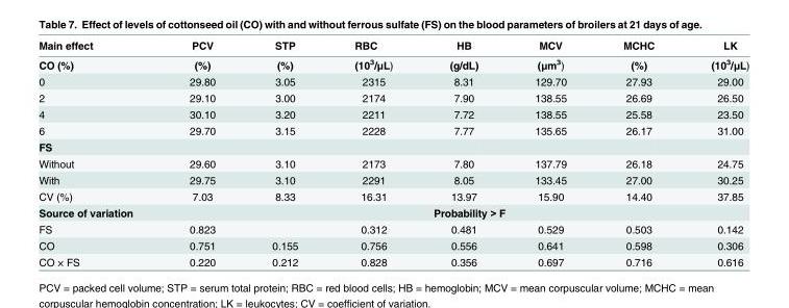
<table><thead><tr><td>Main effect</td><td>PCV</td><td>STP</td><td>RBC</td><td>HB</td><td>MCV</td><td>MCHC</td><td>LK</td></tr></thead><tbody><tr><td>CO (%)</td><td>(%)</td><td>(%)</td><td>(10<sup>3</sup>/μL)</td><td>(g/dL)</td><td>(μm<sup>3</sup>)</td><td>(%)</td><td>(10<sup>3</sup>/μL)</td></tr><tr><td>0</td><td>29.80</td><td>3.05</td><td>2315</td><td>8.31</td><td>129.70</td><td>27.93</td><td>29.00</td></tr><tr><td>2</td><td>29.10</td><td>3.00</td><td>2174</td><td>7.90</td><td>138.55</td><td>26.69</td><td>26.50</td></tr><tr><td>4</td><td>30.10</td><td>3.20</td><td>2211</td><td>7.72</td><td>138.55</td><td>25.58</td><td>23.50</td></tr><tr><td>6</td><td>29.70</td><td>3.15</td><td>2228</td><td>7.77</td><td>135.65</td><td>26.17</td><td>31.00</td></tr><tr><td colspan="8">FS</td></tr><tr><td>Without</td><td>29.60</td><td>3.10</td><td>2173</td><td>7.80</td><td>137.79</td><td>26.18</td><td>24.75</td></tr><tr><td>With</td><td>29.75</td><td>3.10</td><td>2291</td><td>8.05</td><td>133.45</td><td>27.00</td><td>30.25</td></tr><tr><td>CV (%)</td><td>7.03</td><td>8.33</td><td>16.31</td><td>13.97</td><td>15.90</td><td>14.40</td><td>37.85</td></tr><tr><td>Source of variation</td><td colspan="7">Probability &gt; F</td></tr><tr><td>FS</td><td>0.823</td><td></td><td>0.312</td><td>0.481</td><td>0.529</td><td>0.503</td><td>0.142</td></tr><tr><td>CO</td><td>0.751</td><td>0.155</td><td>0.756</td><td>0.556</td><td>0.641</td><td>0.598</td><td>0.306</td></tr><tr><td>CO × FS</td><td>0.220</td><td>0.212</td><td>0.828</td><td>0.356</td><td>0.697</td><td>0.716</td><td>0.616</td></tr></tbody></table>